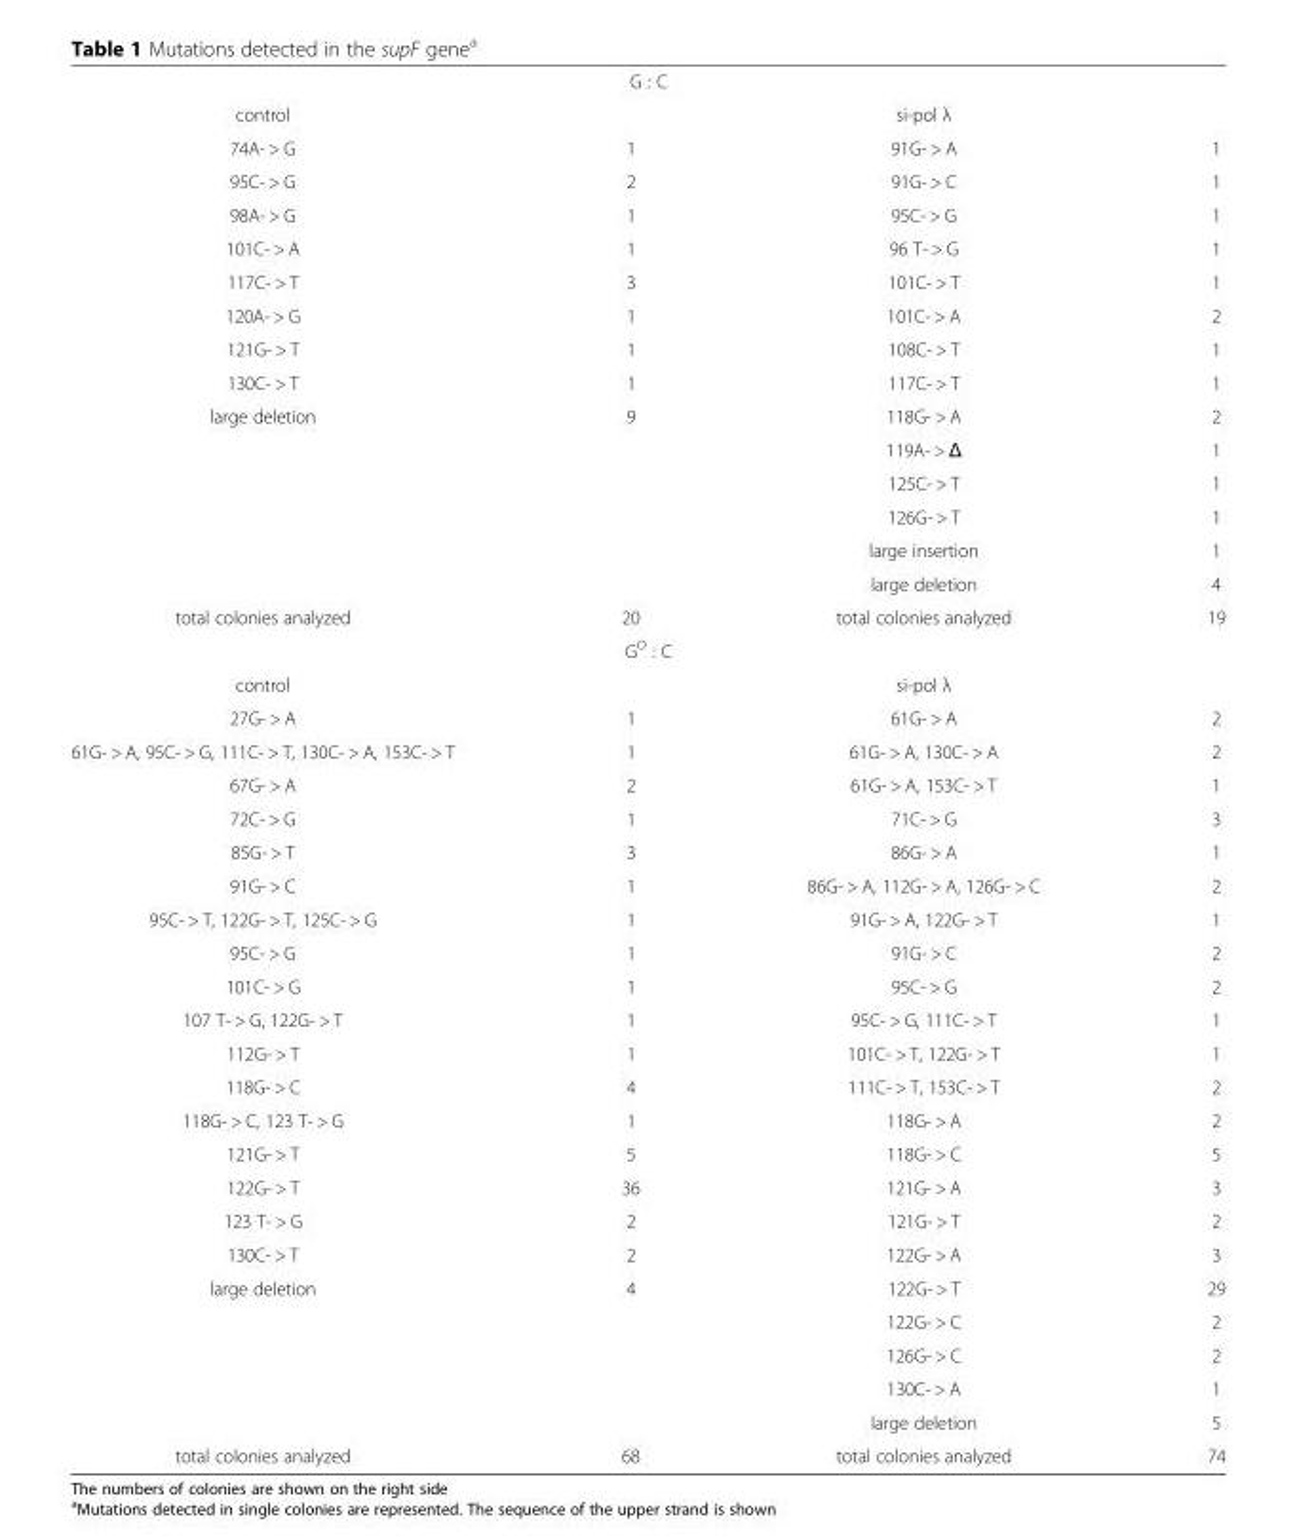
<table><tbody><tr><td colspan="4">G : C</td></tr><tr><td>control</td><td></td><td>si-pol λ</td><td></td></tr><tr><td>74A- &gt; G</td><td>1</td><td>91G- &gt; A</td><td>1</td></tr><tr><td>95C- &gt; G</td><td>2</td><td>91G- &gt; C</td><td>1</td></tr><tr><td>98A- &gt; G</td><td>1</td><td>95C- &gt; G</td><td>1</td></tr><tr><td>101C- &gt; A</td><td>1</td><td>96 T- &gt; G</td><td>1</td></tr><tr><td>117C- &gt; T</td><td>3</td><td>101C- &gt; T</td><td>1</td></tr><tr><td>120A- &gt; G</td><td>1</td><td>101C- &gt; A</td><td>2</td></tr><tr><td>121G- &gt; T</td><td>1</td><td>108C- &gt; T</td><td>1</td></tr><tr><td>130C- &gt; T</td><td>1</td><td>117C- &gt; T</td><td>1</td></tr><tr><td rowspan="6">large deletion</td><td>9</td><td>118G- &gt; A</td><td>2</td></tr><tr><td></td><td>119A- &gt; Δ</td><td>1</td></tr><tr><td></td><td>125C- &gt; T</td><td>1</td></tr><tr><td></td><td>126G- &gt; T</td><td>1</td></tr><tr><td></td><td>large insertion</td><td>1</td></tr><tr><td></td><td>large deletion</td><td>4</td></tr><tr><td>total colonies analyzed</td><td>20</td><td>total colonies analyzed</td><td>19</td></tr><tr><td colspan="4">G<sup>O</sup> : C</td></tr><tr><td>control</td><td></td><td>si-pol λ</td><td></td></tr><tr><td>27G- &gt; A</td><td>1</td><td>61G- &gt; A</td><td>2</td></tr><tr><td>61G- &gt; A, 95C- &gt; G, 111C- &gt; T, 130C- &gt; A, 153C- &gt; T</td><td>1</td><td>61G- &gt; A, 130C- &gt; A</td><td>2</td></tr><tr><td>67G- &gt; A</td><td>2</td><td>61G- &gt; A, 153C- &gt; T</td><td>1</td></tr><tr><td>72C- &gt; G</td><td>1</td><td>71C- &gt; G</td><td>3</td></tr><tr><td>85G- &gt; T</td><td>3</td><td>86G- &gt; A</td><td>1</td></tr><tr><td>91G- &gt; C</td><td>1</td><td>86G- &gt; A, 112G- &gt; A, 126G- &gt; C</td><td>2</td></tr><tr><td>95C- &gt; T, 122G- &gt; T, 125C- &gt; G</td><td>1</td><td>91G- &gt; A, 122G- &gt; T</td><td>1</td></tr><tr><td>95C- &gt; G</td><td>1</td><td>91G- &gt; C</td><td>2</td></tr><tr><td>101C- &gt; G</td><td>1</td><td>95C- &gt; G</td><td>2</td></tr><tr><td>107 T- &gt; G, 122G- &gt; T</td><td>1</td><td>95C- &gt; G, 111C- &gt; T</td><td>1</td></tr><tr><td>112G- &gt; T</td><td>1</td><td>101C- &gt; T, 122G- &gt; T</td><td>1</td></tr><tr><td>118G- &gt; C</td><td>4</td><td>111C- &gt; T, 153C- &gt; T</td><td>2</td></tr><tr><td>118G- &gt; C, 123 T- &gt; G</td><td>1</td><td>118G- &gt; A</td><td>2</td></tr><tr><td>121G- &gt; T</td><td>5</td><td>118G- &gt; C</td><td>5</td></tr><tr><td>122G- &gt; T</td><td>36</td><td>121G- &gt; A</td><td>3</td></tr><tr><td>123 T- &gt; G</td><td>2</td><td>121G- &gt; T</td><td>2</td></tr><tr><td>130C- &gt; T</td><td>2</td><td>122G- &gt; A</td><td>3</td></tr><tr><td rowspan="5">large deletion</td><td>4</td><td>122G- &gt; T</td><td>29</td></tr><tr><td></td><td>122G- &gt; C</td><td>2</td></tr><tr><td></td><td>126G- &gt; C</td><td>2</td></tr><tr><td></td><td>130C- &gt; A</td><td>1</td></tr><tr><td></td><td>large deletion</td><td>5</td></tr><tr><td>total colonies analyzed</td><td>68</td><td>total colonies analyzed</td><td>74</td></tr></tbody></table>